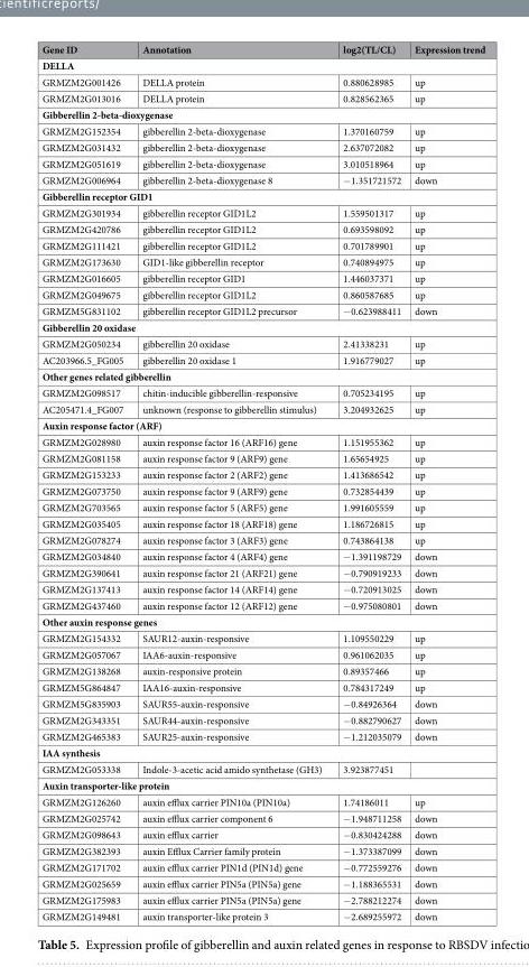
<table><thead><tr><td>Gene ID</td><td>Annotation</td><td>log2(TL/CL)</td><td>Expression trend</td></tr></thead><tbody><tr><td colspan="4">DELLA</td></tr><tr><td>GRMZM2G001426</td><td>DELLA protein</td><td>0.880628985</td><td>up</td></tr><tr><td>GRMZM2G013016</td><td>DELLA protein</td><td>0.828562365</td><td>up</td></tr><tr><td colspan="4">Gibberellin 2-beta-dioxygenase</td></tr><tr><td>GRMZM2G152354</td><td>gibberellin 2-beta-dioxygenase</td><td>1.370160759</td><td>up</td></tr><tr><td>GRMZM2G031432</td><td>gibberellin 2-beta-dioxygenase</td><td>2.637072082</td><td>up</td></tr><tr><td>GRMZM2G051619</td><td>gibberellin 2-beta-dioxygenase</td><td>3.010518964</td><td>up</td></tr><tr><td>GRMZM2G006964</td><td>gibberellin 2-beta-dioxygenase 8</td><td>−1.351721572</td><td>down</td></tr><tr><td colspan="4">Gibberellin receptor GID1</td></tr><tr><td>GRMZM2G301934</td><td>gibberellin receptor GID1L2</td><td>1.559501317</td><td>up</td></tr><tr><td>GRMZM2G420786</td><td>gibberellin receptor GID1L2</td><td>0.693598092</td><td>up</td></tr><tr><td>GRMZM2G111421</td><td>gibberellin receptor GID1L2</td><td>0.701789901</td><td>up</td></tr><tr><td>GRMZM2G173630</td><td>GID1-like gibberellin receptor</td><td>0.740894975</td><td>up</td></tr><tr><td>GRMZM2G016605</td><td>gibberellin receptor GID1</td><td>1.446037371</td><td>up</td></tr><tr><td>GRMZM2G049675</td><td>gibberellin receptor GID1L2</td><td>0.860587685</td><td>up</td></tr><tr><td>GRMZM5G831102</td><td>gibberellin receptor GID1L2 precursor</td><td>−0.623988411</td><td>down</td></tr><tr><td colspan="4">Gibberellin 20 oxidase</td></tr><tr><td>GRMZM2G050234</td><td>gibberellin 20 oxidase</td><td>2.41338231</td><td>up</td></tr><tr><td>AC203966.5_FG005</td><td>gibberellin 20 oxidase 1</td><td>1.916779027</td><td>up</td></tr><tr><td colspan="4">Other genes related gibberellin</td></tr><tr><td>GRMZM2G098517</td><td>chitin-inducible gibberellin-responsive</td><td>0.705234195</td><td>up</td></tr><tr><td>AC205471.4_FG007</td><td>unknown (response to gibberellin stimulus)</td><td>3.204932625</td><td>up</td></tr><tr><td colspan="4">Auxin response factor (ARF)</td></tr><tr><td>GRMZM2G028980</td><td>auxin response factor 16 (ARF16) gene</td><td>1.151955362</td><td>up</td></tr><tr><td>GRMZM2G081158</td><td>auxin response factor 9 (ARF9) gene</td><td>1.65654925</td><td>up</td></tr><tr><td>GRMZM2G153233</td><td>auxin response factor 2 (ARF2) gene</td><td>1.413686542</td><td>up</td></tr><tr><td>GRMZM2G073750</td><td>auxin response factor 9 (ARF9) gene</td><td>0.732854439</td><td>up</td></tr><tr><td>GRMZM2G703565</td><td>auxin response factor 5 (ARF5) gene</td><td>1.991605559</td><td>up</td></tr><tr><td>GRMZM2G035405</td><td>auxin response factor 18 (ARF18) gene</td><td>1.186726815</td><td>up</td></tr><tr><td>GRMZM2G078274</td><td>auxin response factor 3 (ARF3) gene</td><td>0.743864138</td><td>up</td></tr><tr><td>GRMZM2G034840</td><td>auxin response factor 4 (ARF4) gene</td><td>−1.391198729</td><td>down</td></tr><tr><td>GRMZM2G390641</td><td>auxin response factor 21 (ARF21) gene</td><td>−0.790919233</td><td>down</td></tr><tr><td>GRMZM2G137413</td><td>auxin response factor 14 (ARF14) gene</td><td>−0.720913025</td><td>down</td></tr><tr><td>GRMZM2G437460</td><td>auxin response factor 12 (ARF12) gene</td><td>−0.975080801</td><td>down</td></tr><tr><td colspan="4">Other auxin response genes</td></tr><tr><td>GRMZM2G154332</td><td>SAUR12-auxin-responsive</td><td>1.109550229</td><td>up</td></tr><tr><td>GRMZM2G057067</td><td>IAA6-auxin-responsive</td><td>0.961062035</td><td>up</td></tr><tr><td>GRMZM2G138268</td><td>auxin-responsive protein</td><td>0.89357466</td><td>up</td></tr><tr><td>GRMZM5G864847</td><td>IAA16-auxin-responsive</td><td>0.784317249</td><td>up</td></tr><tr><td>GRMZM5G835903</td><td>SAUR55-auxin-responsive</td><td>−0.84926364</td><td>down</td></tr><tr><td>GRMZM2G343351</td><td>SAUR44-auxin-responsive</td><td>−0.882790627</td><td>down</td></tr><tr><td>GRMZM2G465383</td><td>SAUR25-auxin-responsive</td><td>−1.212035079</td><td>down</td></tr><tr><td colspan="4">IAA synthesis</td></tr><tr><td>GRMZM2G053338</td><td>Indole-3-acetic acid amido synthetase (GH3)</td><td>3.923877451</td><td></td></tr><tr><td colspan="4">Auxin transporter-like protein</td></tr><tr><td>GRMZM2G126260</td><td>auxin efflux carrier PIN10a (PIN10a)</td><td>1.74186011</td><td>up</td></tr><tr><td>GRMZM2G025742</td><td>auxin efflux carrier component 6</td><td>−1.948711258</td><td>down</td></tr><tr><td>GRMZM2G098643</td><td>auxin efflux carrier</td><td>−0.830424288</td><td>down</td></tr><tr><td>GRMZM2G382393</td><td>auxin Efflux Carrier family protein</td><td>−1.373387099</td><td>down</td></tr><tr><td>GRMZM2G171702</td><td>auxin efflux carrier PIN1d (PIN1d) gene</td><td>−0.772559276</td><td>down</td></tr><tr><td>GRMZM2G025659</td><td>auxin efflux carrier PIN5a (PIN5a) gene</td><td>−1.188365531</td><td>down</td></tr><tr><td>GRMZM2G175983</td><td>auxin efflux carrier PIN5a (PIN5a) gene</td><td>−2.788212274</td><td>down</td></tr><tr><td>GRMZM2G149481</td><td>auxin transporter-like protein 3</td><td>−2.689255972</td><td>down</td></tr></tbody></table>